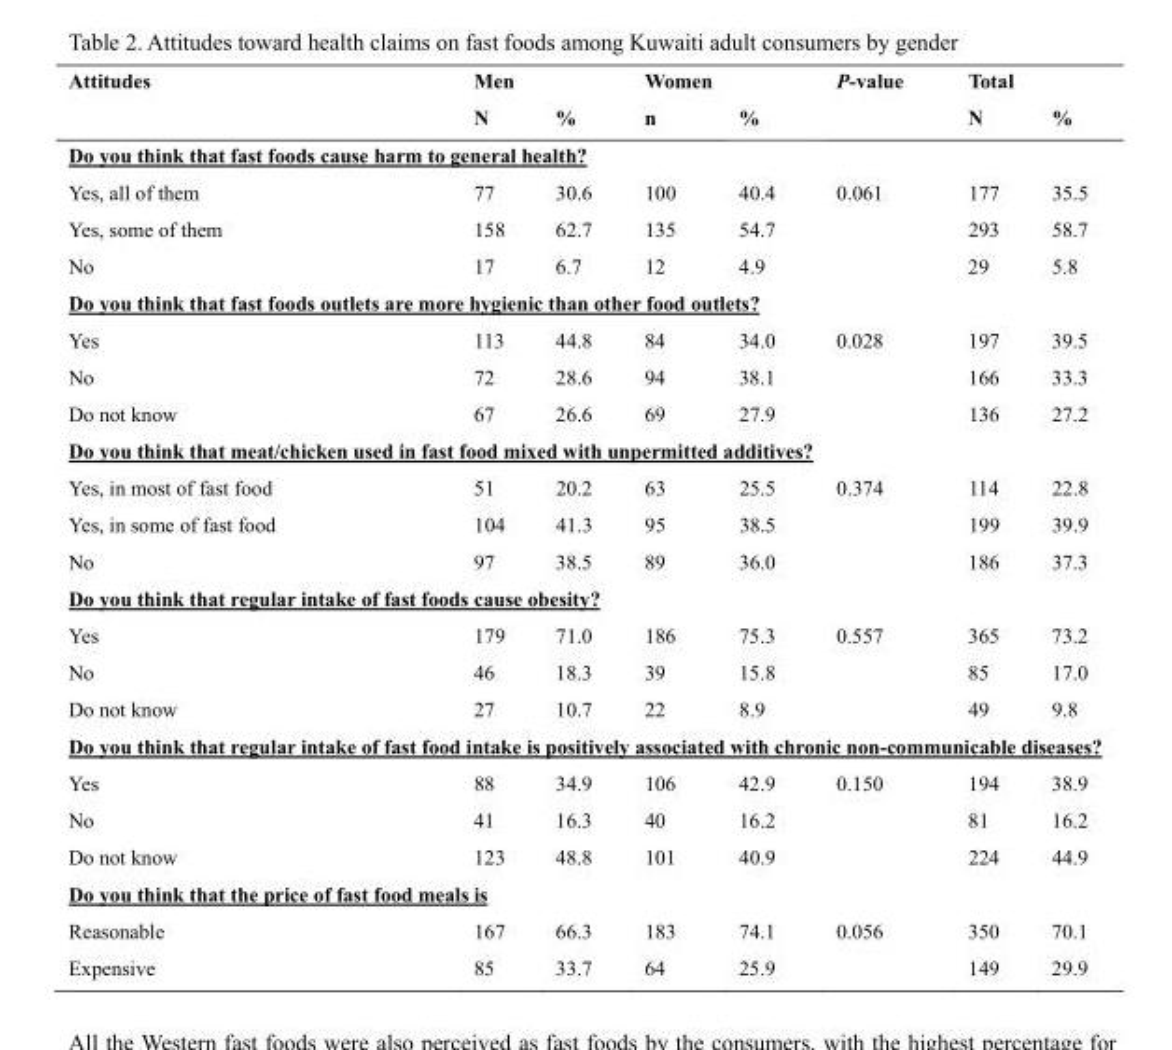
<table><thead><tr><td rowspan="2">Attitudes</td><td colspan="2">Men</td><td colspan="2">Women</td><td rowspan="2">P-value</td><td colspan="2">Total</td></tr><tr><td>N</td><td>%</td><td>n</td><td>%</td><td>N</td><td>%</td></tr></thead><tbody><tr><td colspan="8">Do you think that fast foods cause harm to general health?</td></tr><tr><td>Yes, all of them</td><td>77</td><td>30.6</td><td>100</td><td>40.4</td><td>0.061</td><td>177</td><td>35.5</td></tr><tr><td>Yes, some of them</td><td>158</td><td>62.7</td><td>135</td><td>54.7</td><td></td><td>293</td><td>58.7</td></tr><tr><td>No</td><td>17</td><td>6.7</td><td>12</td><td>4.9</td><td></td><td>29</td><td>5.8</td></tr><tr><td colspan="8">Do you think that fast foods outlets are more hygienic than other food outlets?</td></tr><tr><td>Yes</td><td>113</td><td>44.8</td><td>84</td><td>34.0</td><td>0.028</td><td>197</td><td>39.5</td></tr><tr><td>No</td><td>72</td><td>28.6</td><td>94</td><td>38.1</td><td></td><td>166</td><td>33.3</td></tr><tr><td>Do not know</td><td>67</td><td>26.6</td><td>69</td><td>27.9</td><td></td><td>136</td><td>27.2</td></tr><tr><td colspan="8">Do you think that meat/chicken used in fast food mixed with unpermitted additives?</td></tr><tr><td>Yes, in most of fast food</td><td>51</td><td>20.2</td><td>63</td><td>25.5</td><td>0.374</td><td>114</td><td>22.8</td></tr><tr><td>Yes, in some of fast food</td><td>104</td><td>41.3</td><td>95</td><td>38.5</td><td></td><td>199</td><td>39.9</td></tr><tr><td>No</td><td>97</td><td>38.5</td><td>89</td><td>36.0</td><td></td><td>186</td><td>37.3</td></tr><tr><td colspan="8">Do you think that regular intake of fast foods cause obesity?</td></tr><tr><td>Yes</td><td>179</td><td>71.0</td><td>186</td><td>75.3</td><td>0.557</td><td>365</td><td>73.2</td></tr><tr><td>No</td><td>46</td><td>18.3</td><td>39</td><td>15.8</td><td></td><td>85</td><td>17.0</td></tr><tr><td>Do not know</td><td>27</td><td>10.7</td><td>22</td><td>8.9</td><td></td><td>49</td><td>9.8</td></tr><tr><td colspan="8">Do you think that regular intake of fast food intake is positively associated with chronic non-communicable diseases?</td></tr><tr><td>Yes</td><td>88</td><td>34.9</td><td>106</td><td>42.9</td><td>0.150</td><td>194</td><td>38.9</td></tr><tr><td>No</td><td>41</td><td>16.3</td><td>40</td><td>16.2</td><td></td><td>81</td><td>16.2</td></tr><tr><td>Do not know</td><td>123</td><td>48.8</td><td>101</td><td>40.9</td><td></td><td>224</td><td>44.9</td></tr><tr><td colspan="8">Do you think that the price of fast food meals is</td></tr><tr><td>Reasonable</td><td>167</td><td>66.3</td><td>183</td><td>74.1</td><td>0.056</td><td>350</td><td>70.1</td></tr><tr><td>Expensive</td><td>85</td><td>33.7</td><td>64</td><td>25.9</td><td></td><td>149</td><td>29.9</td></tr></tbody></table>